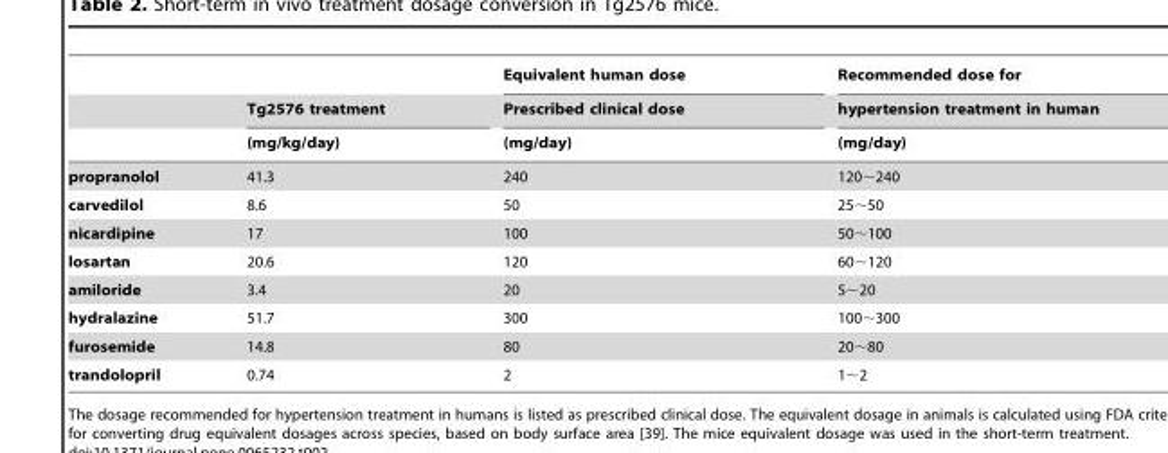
<table><thead><tr><td rowspan="3"></td><td rowspan="3">Tg2576 treatment (mg/kg/day)</td><td rowspan="3">Equivalent human dose Prescribed clinical dose (mg/day)</td><td rowspan="3">Recommended dose for hypertension treatment in human (mg/day)</td></tr><tr></tr><tr></tr></thead><tbody><tr><td>propranolol</td><td>41.3</td><td>240</td><td>120∼240</td></tr><tr><td>carvedilol</td><td>8.6</td><td>50</td><td>25∼50</td></tr><tr><td>nicardipine</td><td>17</td><td>100</td><td>50∼100</td></tr><tr><td>losartan</td><td>20.6</td><td>120</td><td>60∼120</td></tr><tr><td>amiloride</td><td>3.4</td><td>20</td><td>5∼20</td></tr><tr><td>hydralazine</td><td>51.7</td><td>300</td><td>100∼300</td></tr><tr><td>furosemide</td><td>14.8</td><td>80</td><td>20∼80</td></tr><tr><td>trandolopril</td><td>0.74</td><td>2</td><td>1∼2</td></tr></tbody></table>